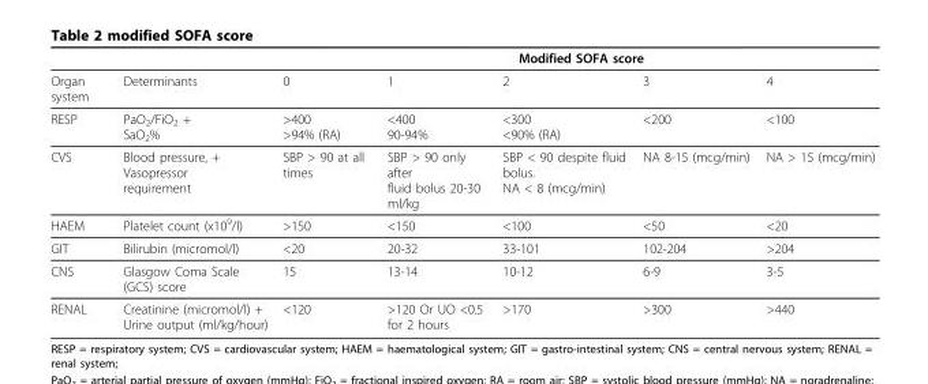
<table><thead><tr><td rowspan="2">Organ system</td><td rowspan="2">Determinants</td><td colspan="5">Modified SOFA score</td></tr><tr><td>0</td><td>1</td><td>2</td><td>3</td><td>4</td></tr></thead><tbody><tr><td>RESP</td><td>PaO<sub>2</sub>/FiO<sub>2</sub> + SaO<sub>2</sub>%</td><td>&gt;400 &gt;94% (RA)</td><td>&lt;400 90-94%</td><td>&lt;300 &lt;90% (RA)</td><td>&lt;200</td><td>&lt;100</td></tr><tr><td>CVS</td><td>Blood pressure, + Vasopressor requirement</td><td>SBP &gt; 90 at all times</td><td>SBP &gt; 90 only after fluid bolus 20-30 ml/kg</td><td>SBP &lt; 90 despite fluid bolus. NA &lt; 8 (mcg/min)</td><td>NA 8-15 (mcg/min)</td><td>NA &gt; 15 (mcg/min)</td></tr><tr><td>HAEM</td><td>Platelet count (x10<sup>9</sup>/l)</td><td>&gt;150</td><td>&lt;150</td><td>&lt;100</td><td>&lt;50</td><td>&lt;20</td></tr><tr><td>GIT</td><td>Bilirubin (micromol/l)</td><td>&lt;20</td><td>20-32</td><td>33-101</td><td>102-204</td><td>&gt;204</td></tr><tr><td>CNS</td><td>Glasgow Coma Scale (GCS) score</td><td>15</td><td>13-14</td><td>10-12</td><td>6-9</td><td>3-5</td></tr><tr><td>RENAL</td><td>Creatinine (micromol/l) + Urine output (ml/kg/hour)</td><td>&lt;120</td><td>&gt;120 Or UO &lt;0.5 for 2 hours</td><td>&gt;170</td><td>&gt;300</td><td>&gt;440</td></tr></tbody></table>